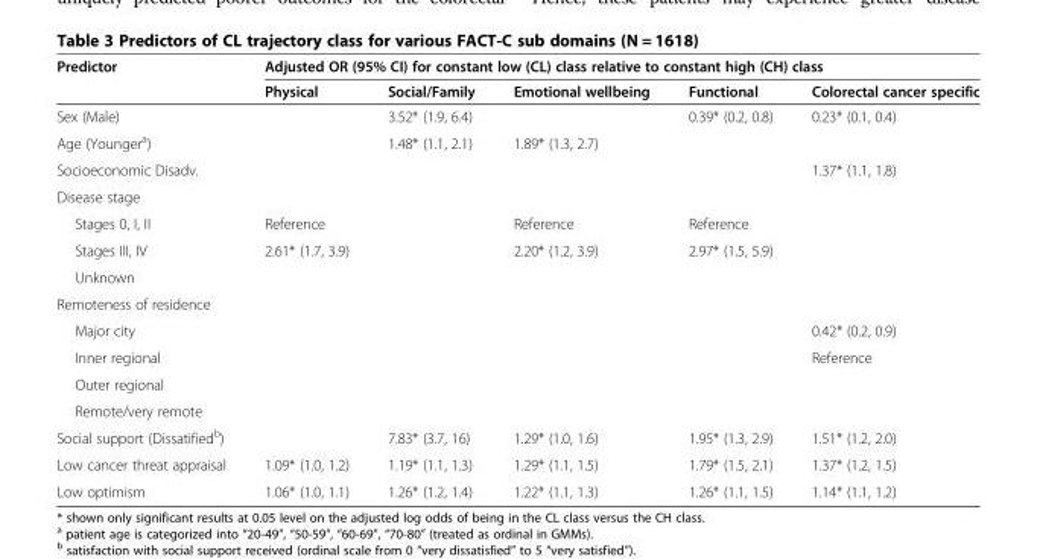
<table><thead><tr><td rowspan="2">Predictor</td><td colspan="5">Adjusted OR (95% CI) for constant low (CL) class relative to constant high (CH) class</td></tr><tr><td>Physical</td><td>Social/Family</td><td>Emotional wellbeing</td><td>Functional</td><td>Colorectal cancer specific</td></tr></thead><tbody><tr><td>Sex (Male)</td><td></td><td>3.52* (1.9, 6.4)</td><td></td><td>0.39* (0.2, 0.8)</td><td>0.23* (0.1, 0.4)</td></tr><tr><td>Age (Younger<sup>a</sup>)</td><td></td><td>1.48* (1.1, 2.1)</td><td>1.89* (1.3, 2.7)</td><td></td><td></td></tr><tr><td>Socioeconomic Disadv.</td><td></td><td></td><td></td><td></td><td>1.37* (1.1, 1.8)</td></tr><tr><td colspan="6">Disease stage</td></tr><tr><td>Stages 0, I, II</td><td>Reference</td><td></td><td>Reference</td><td>Reference</td><td></td></tr><tr><td>Stages III, IV</td><td>2.61* (1.7, 3.9)</td><td></td><td>2.20* (1.2, 3.9)</td><td>2.97* (1.5, 5.9)</td><td></td></tr><tr><td colspan="6">Unknown</td></tr><tr><td colspan="6">Remoteness of residence</td></tr><tr><td>Major city</td><td></td><td></td><td></td><td></td><td>0.42* (0.2, 0.9)</td></tr><tr><td>Inner regional</td><td></td><td></td><td></td><td></td><td>Reference</td></tr><tr><td colspan="6">Outer regional</td></tr><tr><td colspan="6">Remote/very remote</td></tr><tr><td>Social support (Dissatified<sup>b</sup>)</td><td></td><td>7.83* (3.7, 16)</td><td>1.29* (1.0, 1.6)</td><td>1.95* (1.3, 2.9)</td><td>1.51* (1.2, 2.0)</td></tr><tr><td>Low cancer threat appraisal</td><td>1.09* (1.0, 1.2)</td><td>1.19* (1.1, 1.3)</td><td>1.29* (1.1, 1.5)</td><td>1.79* (1.5, 2.1)</td><td>1.37* (1.2, 1.5)</td></tr><tr><td>Low optimism</td><td>1.06* (1.0, 1.1)</td><td>1.26* (1.2, 1.4)</td><td>1.22* (1.1, 1.3)</td><td>1.26* (1.1, 1.5)</td><td>1.14* (1.1, 1.2)</td></tr></tbody></table>